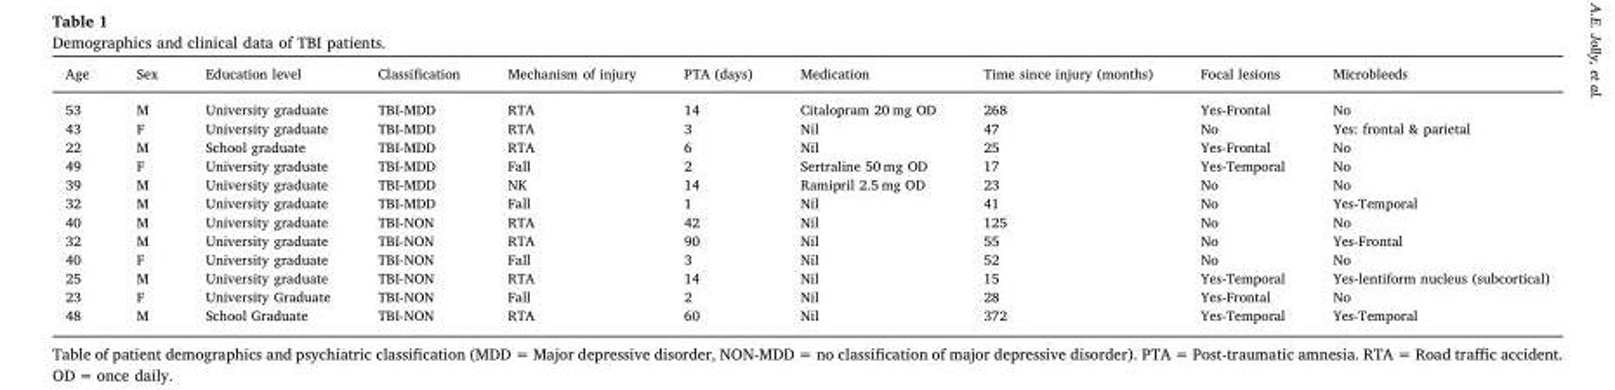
<table><thead><tr><td>Age</td><td>Sex</td><td>Education level</td><td>Classification</td><td>Mechanism of injury</td><td>PTA (days)</td><td>Medication</td><td>Time since injury (months)</td><td>Focal lesions</td><td>Microbleeds</td></tr></thead><tbody><tr><td>53</td><td>M</td><td>University graduate</td><td>TBI-MDD</td><td>RTA</td><td>14</td><td>Citalopram 20 mg OD</td><td>268</td><td>Yes-Frontal</td><td>No</td></tr><tr><td>43</td><td>F</td><td>University graduate</td><td>TBI-MDD</td><td>RTA</td><td>3</td><td>Nil</td><td>47</td><td>No</td><td>Yes: frontal &amp; parietal</td></tr><tr><td>22</td><td>M</td><td>School graduate</td><td>TBI-MDD</td><td>RTA</td><td>6</td><td>Nil</td><td>25</td><td>Yes-Frontal</td><td>No</td></tr><tr><td>49</td><td>F</td><td>University graduate</td><td>TBI-MDD</td><td>Fall</td><td>2</td><td>Sertraline 50 mg OD</td><td>17</td><td>Yes-Temporal</td><td>No</td></tr><tr><td>39</td><td>M</td><td>University graduate</td><td>TBI-MDD</td><td>NK</td><td>14</td><td>Ramipril 2.5 mg OD</td><td>23</td><td>No</td><td>No</td></tr><tr><td>32</td><td>M</td><td>University graduate</td><td>TBI-MDD</td><td>Fall</td><td>1</td><td>Nil</td><td>41</td><td>No</td><td>Yes-Temporal</td></tr><tr><td>40</td><td>M</td><td>University graduate</td><td>TBI-NON</td><td>RTA</td><td>42</td><td>Nil</td><td>125</td><td>No</td><td>No</td></tr><tr><td>32</td><td>M</td><td>University graduate</td><td>TBI-NON</td><td>RTA</td><td>90</td><td>Nil</td><td>55</td><td>No</td><td>Yes-Frontal</td></tr><tr><td>40</td><td>F</td><td>University graduate</td><td>TBI-NON</td><td>Fall</td><td>3</td><td>Nil</td><td>52</td><td>No</td><td>No</td></tr><tr><td>25</td><td>M</td><td>University graduate</td><td>TBI-NON</td><td>RTA</td><td>14</td><td>Nil</td><td>15</td><td>Yes-Temporal</td><td>Yes-lentiform nucleus (subcortical)</td></tr><tr><td>23</td><td>F</td><td>University Graduate</td><td>TBI-NON</td><td>Fall</td><td>2</td><td>Nil</td><td>28</td><td>Yes-Frontal</td><td>No</td></tr><tr><td>48</td><td>M</td><td>School Graduate</td><td>TBI-NON</td><td>RTA</td><td>60</td><td>Nil</td><td>372</td><td>Yes-Temporal</td><td>Yes-Temporal</td></tr></tbody></table>